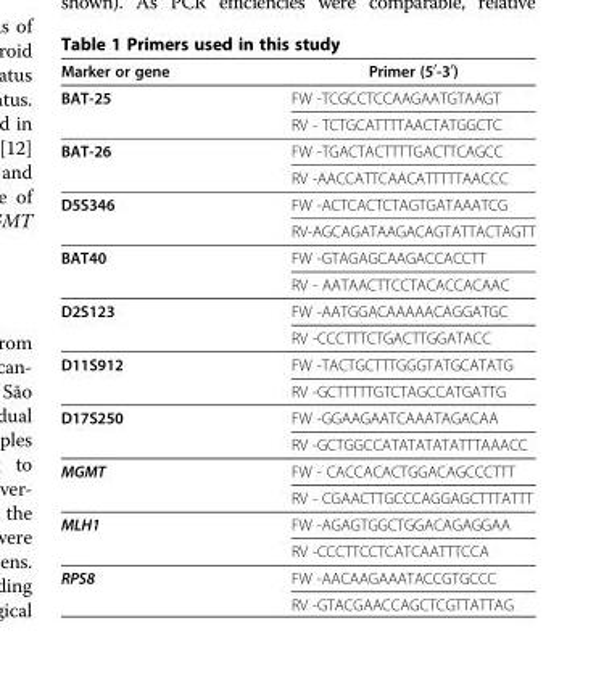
<table><thead><tr><td>Marker or gene</td><td>Primer (5<sup>′</sup>-3<sup>′</sup>)</td></tr></thead><tbody><tr><td rowspan="2">BAT-25</td><td>FW -TCGCCTCCAAGAATGTAAGT</td></tr><tr><td>RV - TCTGCATTTTAACTATGGCTC</td></tr><tr><td rowspan="2">BAT-26</td><td>FW -TGACTACTTTTGACTTCAGCC</td></tr><tr><td>RV -AACCATTCAACATTTTTAACCC</td></tr><tr><td rowspan="2">D5S346</td><td>FW -ACTCACTCTAGTGATAAATCG</td></tr><tr><td>RV-AGCAGATAAGACAGTATTACTAGTT</td></tr><tr><td rowspan="2">BAT40</td><td>FW -GTAGAGCAAGACCACCTT</td></tr><tr><td>RV - AATAACTTCCTACACCACAAC</td></tr><tr><td rowspan="2">D2S123</td><td>FW -AATGGACAAAAACAGGATGC</td></tr><tr><td>RV -CCCTTTCTGACTTGGATACC</td></tr><tr><td rowspan="2">D11S912</td><td>FW -TACTGCTTTGGGTATGCATATG</td></tr><tr><td>RV -GCTTTTTGTCTAGCCATGATTG</td></tr><tr><td rowspan="2">D17S250</td><td>FW -GGAAGAATCAAATAGACAA</td></tr><tr><td>RV -GCTGGCCATATATATATTTAAACC</td></tr><tr><td rowspan="2">MGMT</td><td>FW - CACCACACTGGACAGCCCTTT</td></tr><tr><td>RV - CGAACTTGCCCAGGAGCTTTATTT</td></tr><tr><td rowspan="2">MLH1</td><td>FW -AGAGTGGCTGGACAGAGGAA</td></tr><tr><td>RV -CCCTTCCTCATCAATTTCCA</td></tr><tr><td rowspan="2">RPS8</td><td>FW -AACAAGAAATACCGTGCCC</td></tr><tr><td>RV -GTACGAACCAGCTCGTTATTAG</td></tr></tbody></table>